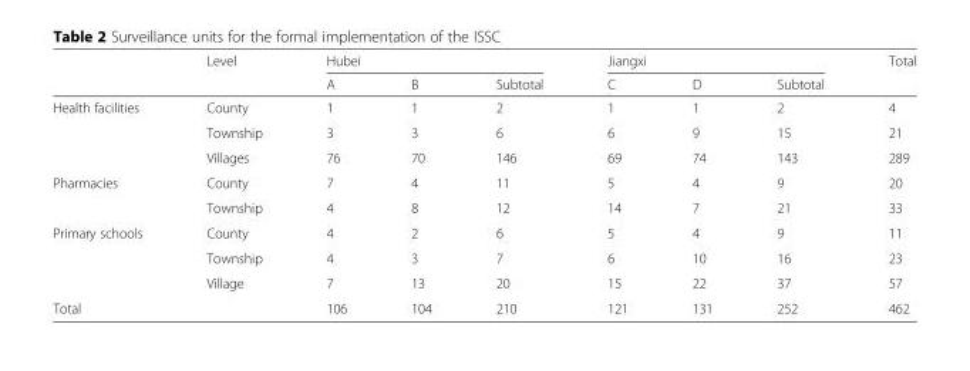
<table><thead><tr><td rowspan="2"></td><td rowspan="2">Level</td><td colspan="3">Hubei</td><td colspan="3">Jiangxi</td><td rowspan="2">Total</td></tr><tr><td>A</td><td>B</td><td>Subtotal</td><td>C</td><td>D</td><td>Subtotal</td></tr></thead><tbody><tr><td rowspan="3">Health facilities</td><td>County</td><td>1</td><td>1</td><td>2</td><td>1</td><td>1</td><td>2</td><td>4</td></tr><tr><td>Township</td><td>3</td><td>3</td><td>6</td><td>6</td><td>9</td><td>15</td><td>21</td></tr><tr><td>Villages</td><td>76</td><td>70</td><td>146</td><td>69</td><td>74</td><td>143</td><td>289</td></tr><tr><td rowspan="2">Pharmacies</td><td>County</td><td>7</td><td>4</td><td>11</td><td>5</td><td>4</td><td>9</td><td>20</td></tr><tr><td>Township</td><td>4</td><td>8</td><td>12</td><td>14</td><td>7</td><td>21</td><td>33</td></tr><tr><td rowspan="3">Primary schools</td><td>County</td><td>4</td><td>2</td><td>6</td><td>5</td><td>4</td><td>9</td><td>11</td></tr><tr><td>Township</td><td>4</td><td>3</td><td>7</td><td>6</td><td>10</td><td>16</td><td>23</td></tr><tr><td>Village</td><td>7</td><td>13</td><td>20</td><td>15</td><td>22</td><td>37</td><td>57</td></tr><tr><td colspan="2">Total</td><td>106</td><td>104</td><td>210</td><td>121</td><td>131</td><td>252</td><td>462</td></tr></tbody></table>